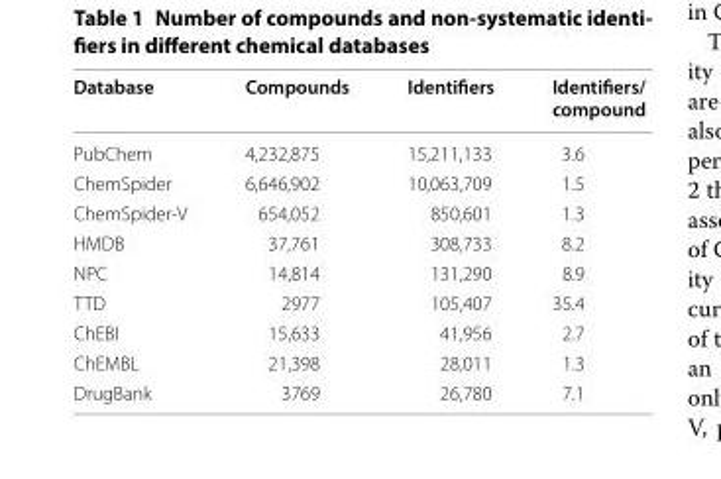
<table><thead><tr><td>Database</td><td>Compounds</td><td>Identifiers</td><td>Identifiers/ compound</td></tr></thead><tbody><tr><td>PubChem</td><td>4,232,875</td><td>15,211,133</td><td>3.6</td></tr><tr><td>ChemSpider</td><td>6,646,902</td><td>10,063,709</td><td>1.5</td></tr><tr><td>ChemSpider-V</td><td>654,052</td><td>850,601</td><td>1.3</td></tr><tr><td>HMDB</td><td>37,761</td><td>308,733</td><td>8.2</td></tr><tr><td>NPC</td><td>14,814</td><td>131,290</td><td>8.9</td></tr><tr><td>TTD</td><td>2977</td><td>105,407</td><td>35.4</td></tr><tr><td>ChEBI</td><td>15,633</td><td>41,956</td><td>2.7</td></tr><tr><td>ChEMBL</td><td>21,398</td><td>28,011</td><td>1.3</td></tr><tr><td>DrugBank</td><td>3769</td><td>26,780</td><td>7.1</td></tr></tbody></table>